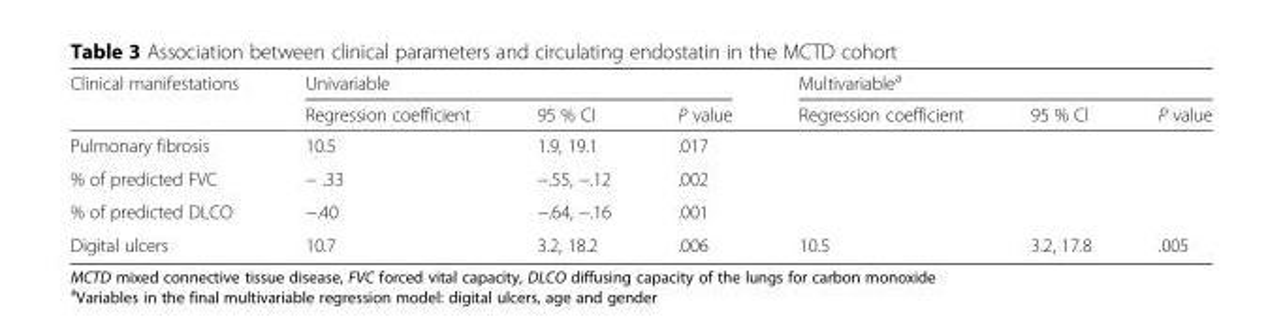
<table><thead><tr><td rowspan="2">Clinical manifestations</td><td colspan="3">Univariable</td><td colspan="3">Multivariable<sup>a</sup></td></tr><tr><td>Regression coefficient</td><td>95 % CI</td><td>P value</td><td>Regression coefficient</td><td>95 % CI</td><td>P value</td></tr></thead><tbody><tr><td>Pulmonary fibrosis</td><td>10.5</td><td>1.9, 19.1</td><td>.017</td><td></td><td></td><td></td></tr><tr><td>% of predicted FVC</td><td>− .33</td><td>−.55, −.12</td><td>.002</td><td></td><td></td><td></td></tr><tr><td>% of predicted DLCO</td><td>−.40</td><td>−.64, −.16</td><td>.001</td><td></td><td></td><td></td></tr><tr><td>Digital ulcers</td><td>10.7</td><td>3.2, 18.2</td><td>.006</td><td>10.5</td><td>3.2, 17.8</td><td>.005</td></tr></tbody></table>